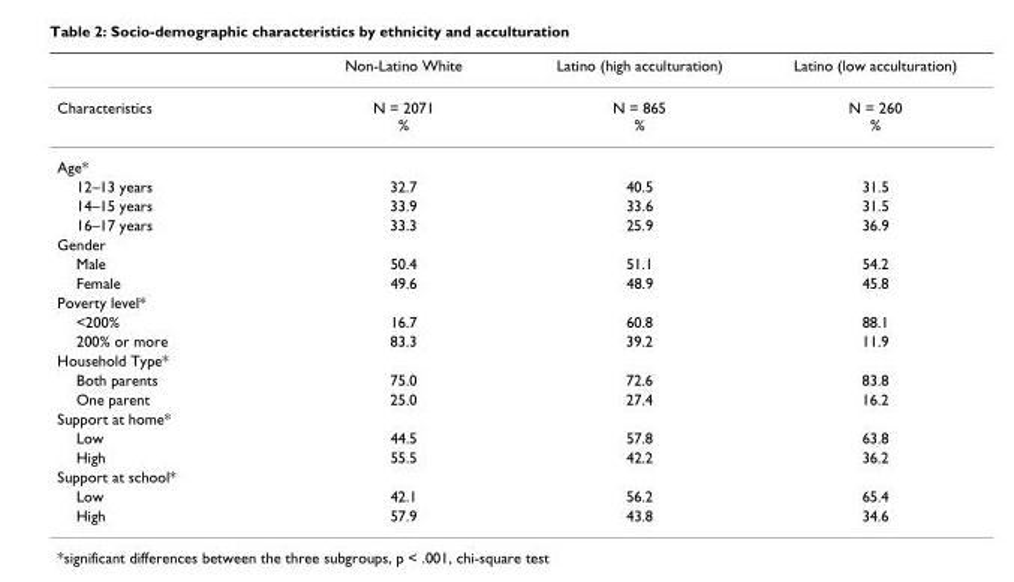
<table><thead><tr><td></td><td>Non-Latino White</td><td>Latino (high acculturation)</td><td>Latino (low acculturation)</td></tr></thead><tbody><tr><td>Characteristics</td><td>N = 2071 %</td><td>N = 865 %</td><td>N = 260 %</td></tr><tr><td colspan="4">Age*</td></tr><tr><td>12–13 years</td><td>32.7</td><td>40.5</td><td>31.5</td></tr><tr><td>14–15 years</td><td>33.9</td><td>33.6</td><td>31.5</td></tr><tr><td>16–17 years</td><td>33.3</td><td>25.9</td><td>36.9</td></tr><tr><td colspan="4">Gender</td></tr><tr><td>Male</td><td>50.4</td><td>51.1</td><td>54.2</td></tr><tr><td>Female</td><td>49.6</td><td>48.9</td><td>45.8</td></tr><tr><td colspan="4">Poverty level*</td></tr><tr><td>&lt;200%</td><td>16.7</td><td>60.8</td><td>88.1</td></tr><tr><td>200% or more</td><td>83.3</td><td>39.2</td><td>11.9</td></tr><tr><td colspan="4">Household Type*</td></tr><tr><td>Both parents</td><td>75.0</td><td>72.6</td><td>83.8</td></tr><tr><td>One parent</td><td>25.0</td><td>27.4</td><td>16.2</td></tr><tr><td colspan="4">Support at home*</td></tr><tr><td>Low</td><td>44.5</td><td>57.8</td><td>63.8</td></tr><tr><td>High</td><td>55.5</td><td>42.2</td><td>36.2</td></tr><tr><td colspan="4">Support at school*</td></tr><tr><td>Low</td><td>42.1</td><td>56.2</td><td>65.4</td></tr><tr><td>High</td><td>57.9</td><td>43.8</td><td>34.6</td></tr></tbody></table>